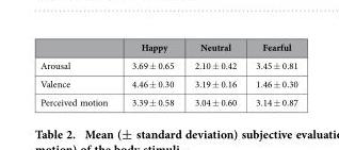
<table><thead><tr><td></td><td>Happy</td><td>Neutral</td><td>Fearful</td></tr></thead><tbody><tr><td>Arousal</td><td>3.69 ± 0.65</td><td>2.10 ± 0.42</td><td>3.45 ± 0.81</td></tr><tr><td>Valence</td><td>4.46 ± 0.30</td><td>3.19 ± 0.16</td><td>1.46 ± 0.30</td></tr><tr><td>Perceived motion</td><td>3.39 ± 0.58</td><td>3.04 ± 0.60</td><td>3.14 ± 0.87</td></tr></tbody></table>